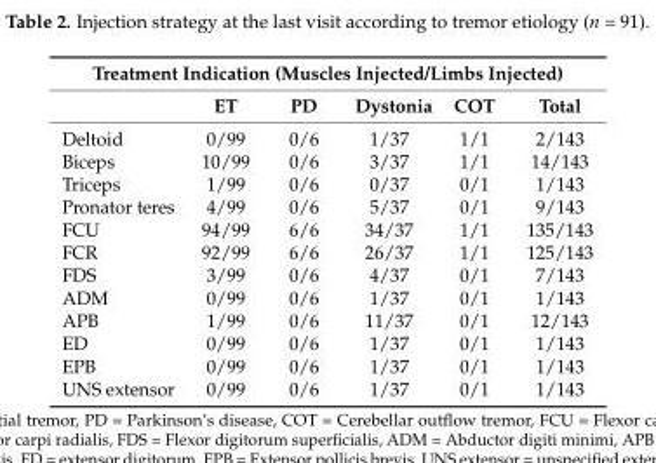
<table><thead><tr><td colspan="6">Treatment Indication (Muscles Injected/Limbs Injected)</td></tr><tr><td></td><td>ET</td><td>PD</td><td>Dystonia</td><td>COT</td><td>Total</td></tr></thead><tbody><tr><td>Deltoid</td><td>0/99</td><td>0/6</td><td>1/37</td><td>1/1</td><td>2/143</td></tr><tr><td>Biceps</td><td>10/99</td><td>0/6</td><td>3/37</td><td>1/1</td><td>14/143</td></tr><tr><td>Triceps</td><td>1/99</td><td>0/6</td><td>0/37</td><td>0/1</td><td>1/143</td></tr><tr><td>Pronator teres</td><td>4/99</td><td>0/6</td><td>5/37</td><td>0/1</td><td>9/143</td></tr><tr><td>FCU</td><td>94/99</td><td>6/6</td><td>34/37</td><td>1/1</td><td>135/143</td></tr><tr><td>FCR</td><td>92/99</td><td>6/6</td><td>26/37</td><td>1/1</td><td>125/143</td></tr><tr><td>FDS</td><td>3/99</td><td>0/6</td><td>4/37</td><td>0/1</td><td>7/143</td></tr><tr><td>ADM</td><td>0/99</td><td>0/6</td><td>1/37</td><td>0/1</td><td>1/143</td></tr><tr><td>APB</td><td>1/99</td><td>0/6</td><td>11/37</td><td>0/1</td><td>12/143</td></tr><tr><td>ED</td><td>0/99</td><td>0/6</td><td>1/37</td><td>0/1</td><td>1/143</td></tr><tr><td>EPB</td><td>0/99</td><td>0/6</td><td>1/37</td><td>0/1</td><td>1/143</td></tr><tr><td>UNS extensor</td><td>0/99</td><td>0/6</td><td>1/37</td><td>0/1</td><td>1/143</td></tr></tbody></table>